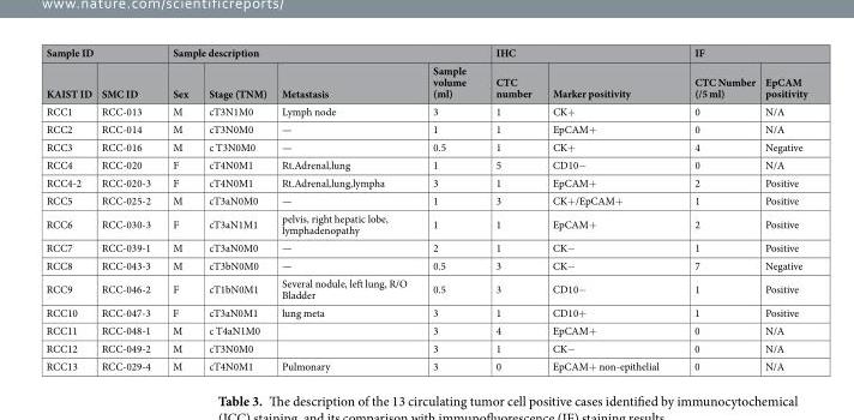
<table><thead><tr><td colspan="2">Sample ID</td><td colspan="4">Sample description</td><td colspan="2">IHC</td><td colspan="2">IF</td></tr><tr><td>KAIST ID</td><td>SMC ID</td><td>Sex</td><td>Stage (TNM)</td><td>Metastasis</td><td>Sample volume (ml)</td><td>CTC number</td><td>Marker positivity</td><td>CTC Number (/5 ml)</td><td>EpCAM positivity</td></tr></thead><tbody><tr><td>RCC1</td><td>RCC-013</td><td>M</td><td>cT3N1M0</td><td>Lymph node</td><td>3</td><td>1</td><td>CK+</td><td>0</td><td>N/A</td></tr><tr><td>RCC2</td><td>RCC-014</td><td>M</td><td>cT3N0M0</td><td>—</td><td>1</td><td>1</td><td>EpCAM+</td><td>0</td><td>N/A</td></tr><tr><td>RCC3</td><td>RCC-016</td><td>M</td><td>c T3N0M0</td><td>—</td><td>0.5</td><td>1</td><td>CK+</td><td>4</td><td>Negative</td></tr><tr><td>RCC4</td><td>RCC-020</td><td>F</td><td>cT4N0M1</td><td>Rt.Adrenal,lung</td><td>1</td><td>5</td><td>CD10−</td><td>0</td><td>N/A</td></tr><tr><td>RCC4-2</td><td>RCC-020-3</td><td>F</td><td>cT4N0M1</td><td>Rt.Adrenal,lung,lympha</td><td>3</td><td>1</td><td>EpCAM+</td><td>2</td><td>Positive</td></tr><tr><td>RCC5</td><td>RCC-025-2</td><td>M</td><td>cT3aN0M0</td><td>—</td><td>1</td><td>3</td><td>CK+/EpCAM+</td><td>1</td><td>Positive</td></tr><tr><td>RCC6</td><td>RCC-030-3</td><td>F</td><td>cT3aN1M1</td><td>pelvis, right hepatic lobe, lymphadenopathy</td><td>1</td><td>1</td><td>EpCAM+</td><td>2</td><td>Positive</td></tr><tr><td>RCC7</td><td>RCC-039-1</td><td>M</td><td>cT3aN0M0</td><td>—</td><td>2</td><td>1</td><td>CK−</td><td>1</td><td>Positive</td></tr><tr><td>RCC8</td><td>RCC-043-3</td><td>M</td><td>cT3bN0M0</td><td>—</td><td>0.5</td><td>3</td><td>CK−</td><td>7</td><td>Negative</td></tr><tr><td>RCC9</td><td>RCC-046-2</td><td>F</td><td>cT1bN0M1</td><td>Several nodule, left lung, R/O Bladder</td><td>0.5</td><td>3</td><td>CD10−</td><td>1</td><td>Positive</td></tr><tr><td>RCC10</td><td>RCC-047-3</td><td>F</td><td>cT3aN0M1</td><td>lung meta</td><td>3</td><td>1</td><td>CD10+</td><td>1</td><td>Positive</td></tr><tr><td>RCC11</td><td>RCC-048-1</td><td>M</td><td>c T4aN1M0</td><td></td><td>3</td><td>4</td><td>EpCAM+</td><td>0</td><td>N/A</td></tr><tr><td>RCC12</td><td>RCC-049-2</td><td>M</td><td>cT3N0M0</td><td></td><td>3</td><td>1</td><td>CK−</td><td>0</td><td>N/A</td></tr><tr><td>RCC13</td><td>RCC-029-4</td><td>M</td><td>cT4N0M1</td><td>Pulmonary</td><td>3</td><td>0</td><td>EpCAM+ non-epithelial</td><td>0</td><td>N/A</td></tr></tbody></table>